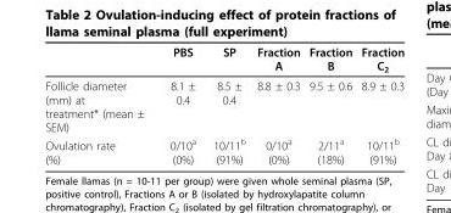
<table><thead><tr><td></td><td>PBS</td><td>SP</td><td>Fraction A</td><td>Fraction B</td><td>Fraction C<sub>2</sub></td></tr></thead><tbody><tr><td>Follicle diameter (mm) at treatment* (mean ± SEM)</td><td>8.1 ± 0.4</td><td>8.5 ± 0.4</td><td>8.8 ± 0.3</td><td>9.5 ± 0.6</td><td>8.9 ± 0.3</td></tr><tr><td>Ovulation rate (%)</td><td>0/10<sup>a</sup> (0%)</td><td>10/11<sup>b</sup> (91%)</td><td>0/10<sup>a</sup> (0%)</td><td>2/11<sup>a</sup> (18%)</td><td>10/11<sup>b</sup> (91%)</td></tr></tbody></table>